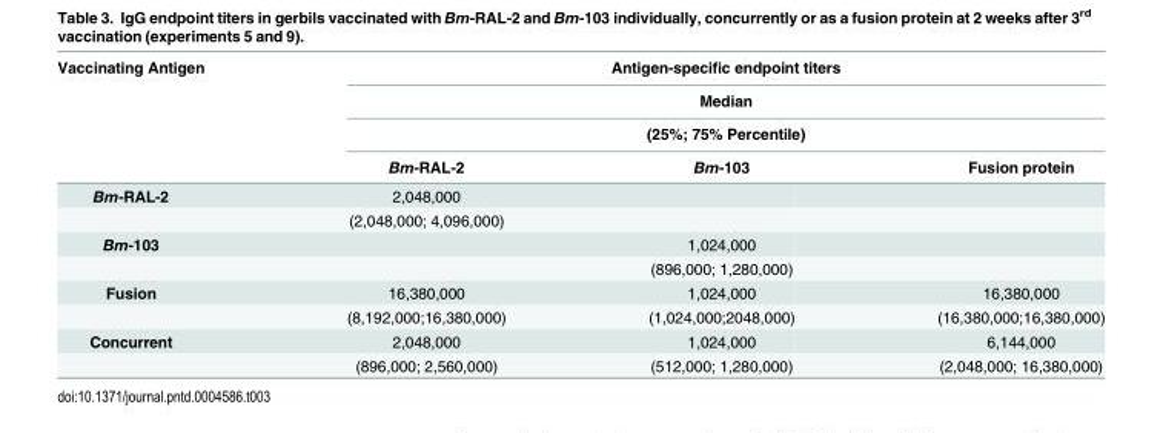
<table><thead><tr><td rowspan="4">Vaccinating Antigen</td><td rowspan="3" colspan="3">Antigen-specific endpoint titers Median (25%; 75% Percentile)</td></tr><tr></tr><tr></tr><tr><td>Bm-RAL-2</td><td>Bm-103</td><td>Fusion protein</td></tr></thead><tbody><tr><td rowspan="2">Bm-RAL-2</td><td>2,048,000</td><td></td><td></td></tr><tr><td>(2,048,000; 4,096,000)</td><td></td><td></td></tr><tr><td rowspan="2">Bm-103</td><td></td><td>1,024,000</td><td></td></tr><tr><td></td><td>(896,000; 1,280,000)</td><td></td></tr><tr><td rowspan="2">Fusion</td><td>16,380,000</td><td>1,024,000</td><td>16,380,000</td></tr><tr><td>(8,192,000;16,380,000)</td><td>(1,024,000;2048,000)</td><td>(16,380,000;16,380,000)</td></tr><tr><td rowspan="2">Concurrent</td><td>2,048,000</td><td>1,024,000</td><td>6,144,000</td></tr><tr><td>(896,000; 2,560,000)</td><td>(512,000; 1,280,000)</td><td>(2,048,000; 16,380,000)</td></tr></tbody></table>